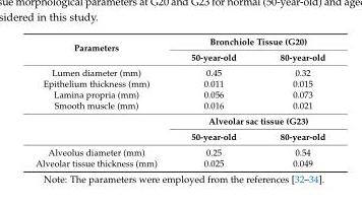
<table><tbody><tr><td rowspan="2">Parameters</td><td colspan="2">Bronchiole Tissue (G20)</td></tr><tr><td>50-year-old</td><td>80-year-old</td></tr><tr><td>Lumen diameter (mm)</td><td>0.45</td><td>0.32</td></tr><tr><td>Epithelium thickness (mm)</td><td>0.011</td><td>0.015</td></tr><tr><td>Lamina propria (mm)</td><td>0.056</td><td>0.073</td></tr><tr><td rowspan="3">Smooth muscle (mm)</td><td>0.016</td><td>0.021</td></tr><tr><td colspan="2">Alveolar sac tissue (G23)</td></tr><tr><td>50-year-old</td><td>80-year-old</td></tr><tr><td>Alveolus diameter (mm)</td><td>0.25</td><td>0.54</td></tr><tr><td>Alveolar tissue thickness (mm)</td><td>0.025</td><td>0.049</td></tr></tbody></table>